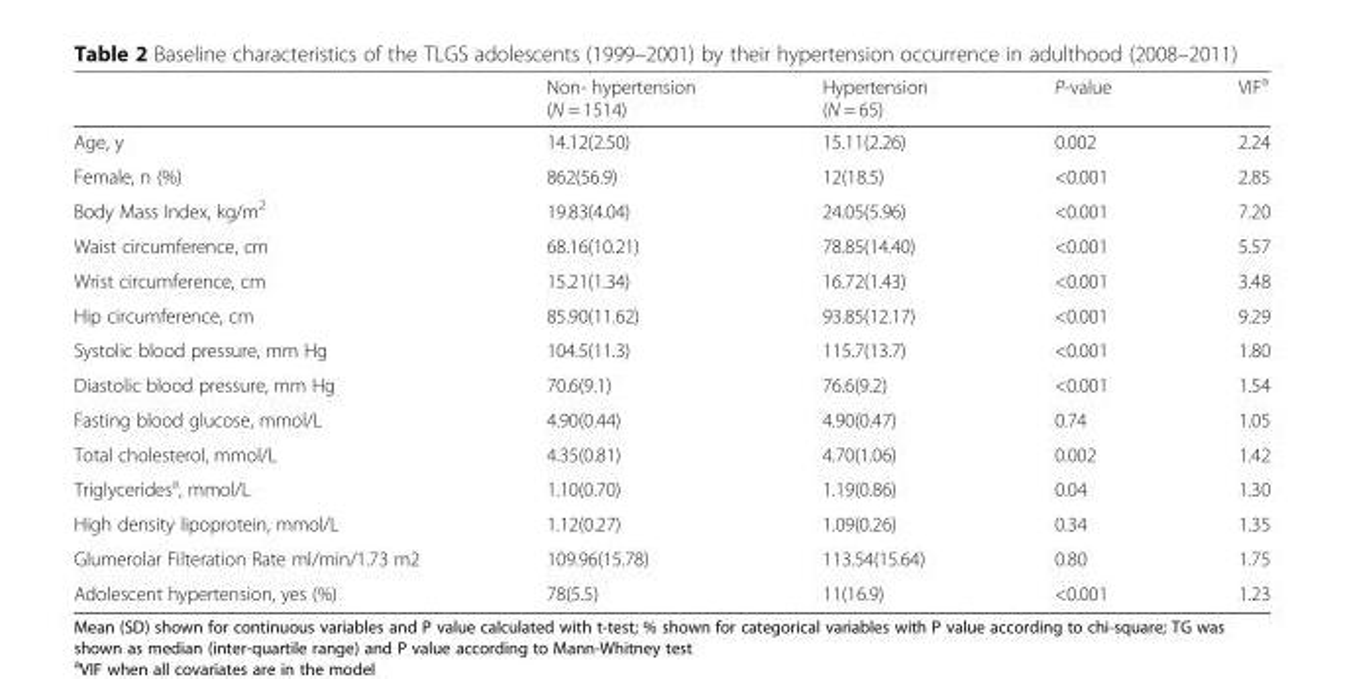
<table><thead><tr><td></td><td>Non- hypertension (N = 1514)</td><td>Hypertension (N = 65)</td><td>P-value</td><td>VIF<sup>a</sup></td></tr></thead><tbody><tr><td>Age, y</td><td>14.12(2.50)</td><td>15.11(2.26)</td><td>0.002</td><td>2.24</td></tr><tr><td>Female, n (%)</td><td>862(56.9)</td><td>12(18.5)</td><td>&lt;0.001</td><td>2.85</td></tr><tr><td>Body Mass Index, kg/m<sup>2</sup></td><td>19.83(4.04)</td><td>24.05(5.96)</td><td>&lt;0.001</td><td>7.20</td></tr><tr><td>Waist circumference, cm</td><td>68.16(10.21)</td><td>78.85(14.40)</td><td>&lt;0.001</td><td>5.57</td></tr><tr><td>Wrist circumference, cm</td><td>15.21(1.34)</td><td>16.72(1.43)</td><td>&lt;0.001</td><td>3.48</td></tr><tr><td>Hip circumference, cm</td><td>85.90(11.62)</td><td>93.85(12.17)</td><td>&lt;0.001</td><td>9.29</td></tr><tr><td>Systolic blood pressure, mm Hg</td><td>104.5(11.3)</td><td>115.7(13.7)</td><td>&lt;0.001</td><td>1.80</td></tr><tr><td>Diastolic blood pressure, mm Hg</td><td>70.6(9.1)</td><td>76.6(9.2)</td><td>&lt;0.001</td><td>1.54</td></tr><tr><td>Fasting blood glucose, mmol/L</td><td>4.90(0.44)</td><td>4.90(0.47)</td><td>0.74</td><td>1.05</td></tr><tr><td>Total cholesterol, mmol/L</td><td>4.35(0.81)</td><td>4.70(1.06)</td><td>0.002</td><td>1.42</td></tr><tr><td>Triglycerides<sup>a</sup>, mmol/L</td><td>1.10(0.70)</td><td>1.19(0.86)</td><td>0.04</td><td>1.30</td></tr><tr><td>High density lipoprotein, mmol/L</td><td>1.12(0.27)</td><td>1.09(0.26)</td><td>0.34</td><td>1.35</td></tr><tr><td>Glumerolar Filteration Rate ml/min/1.73 m2</td><td>109.96(15.78)</td><td>113.54(15.64)</td><td>0.80</td><td>1.75</td></tr><tr><td>Adolescent hypertension, yes (%)</td><td>78(5.5)</td><td>11(16.9)</td><td>&lt;0.001</td><td>1.23</td></tr></tbody></table>